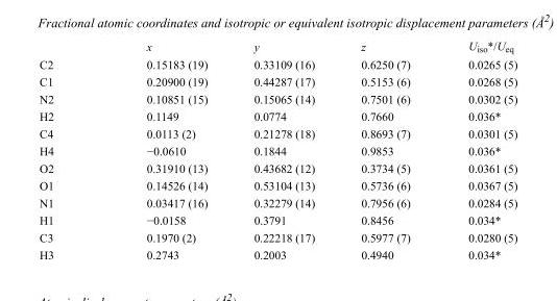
<table><thead><tr><td></td><td>x</td><td>y</td><td>z</td><td>U<sub>iso</sub>*/U<sub>eq</sub></td></tr></thead><tbody><tr><td>C2</td><td>0.15183 (19)</td><td>0.33109 (16)</td><td>0.6250 (7)</td><td>0.0265 (5)</td></tr><tr><td>C1</td><td>0.20900 (19)</td><td>0.44287 (17)</td><td>0.5153 (6)</td><td>0.0268 (5)</td></tr><tr><td>N2</td><td>0.10851 (15)</td><td>0.15065 (14)</td><td>0.7501 (6)</td><td>0.0302 (5)</td></tr><tr><td>H2</td><td>0.1149</td><td>0.0774</td><td>0.7660</td><td>0.036*</td></tr><tr><td>C4</td><td>0.0113 (2)</td><td>0.21278 (18)</td><td>0.8693 (7)</td><td>0.0301 (5)</td></tr><tr><td>H4</td><td>−0.0610</td><td>0.1844</td><td>0.9853</td><td>0.036*</td></tr><tr><td>O2</td><td>0.31910 (13)</td><td>0.43682 (12)</td><td>0.3734 (5)</td><td>0.0361 (5)</td></tr><tr><td>O1</td><td>0.14526 (14)</td><td>0.53104 (13)</td><td>0.5736 (6)</td><td>0.0367 (5)</td></tr><tr><td>N1</td><td>0.03417 (16)</td><td>0.32279 (14)</td><td>0.7956 (6)</td><td>0.0284 (5)</td></tr><tr><td>H1</td><td>−0.0158</td><td>0.3791</td><td>0.8456</td><td>0.034*</td></tr><tr><td>C3</td><td>0.1970 (2)</td><td>0.22218 (17)</td><td>0.5977 (7)</td><td>0.0280 (5)</td></tr><tr><td>H3</td><td>0.2743</td><td>0.2003</td><td>0.4940</td><td>0.034*</td></tr></tbody></table>